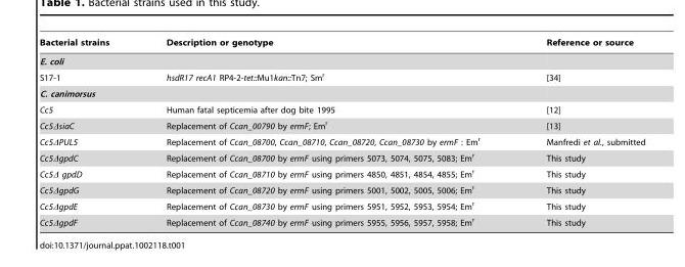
<table><thead><tr><td>Bacterial strains</td><td>Description or genotype</td><td>Reference or source</td></tr></thead><tbody><tr><td colspan="3">E. coli</td></tr><tr><td>S17-1</td><td>hsdR17 recA1 RP4-2-tet::Mu1kan::Tn7; Sm<sup>r</sup></td><td>[34]</td></tr><tr><td colspan="3">C. canimorsus</td></tr><tr><td>Cc5</td><td>Human fatal septicemia after dog bite 1995</td><td>[12]</td></tr><tr><td>Cc5ΔsiaC</td><td>Replacement of Ccan_00790 by ermF; Em<sup>r</sup></td><td>[13]</td></tr><tr><td>Cc5ΔPUL5</td><td>Replacement of Ccan_08700, Ccan_08710, Ccan_08720, Ccan_08730 by ermF : Em<sup>r</sup></td><td>Manfredi et al., submitted</td></tr><tr><td>Cc5ΔgpdC</td><td>Replacement of Ccan_08700 by ermF using primers 5073, 5074, 5075, 5083; Em<sup>r</sup></td><td>This study</td></tr><tr><td>Cc5Δ gpdD</td><td>Replacement of Ccan_08710 by ermF using primers 4850, 4851, 4854, 4855; Em<sup>r</sup></td><td>This study</td></tr><tr><td>Cc5ΔgpdG</td><td>Replacement of Ccan_08720 by ermF using primers 5001, 5002, 5005, 5006; Em<sup>r</sup></td><td>This study</td></tr><tr><td>Cc5ΔgpdE</td><td>Replacement of Ccan_08730 by ermF using primers 5951, 5952, 5953, 5954; Em<sup>r</sup></td><td>This study</td></tr><tr><td>Cc5ΔgpdF</td><td>Replacement of Ccan_08740 by ermF using primers 5955, 5956, 5957, 5958; Em<sup>r</sup></td><td>This study</td></tr></tbody></table>